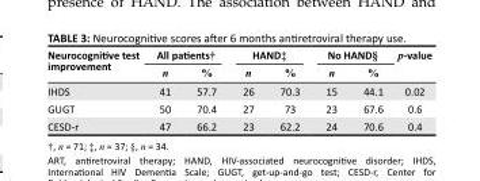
<table><thead><tr><td rowspan="2">Neurocognitive test improvement</td><td colspan="2">All patients†</td><td colspan="2">HAND‡</td><td colspan="2">No HAND§</td><td rowspan="2">p-value</td></tr><tr><td>n</td><td>%</td><td>n</td><td>%</td><td>n</td><td>%</td></tr></thead><tbody><tr><td>IHDS</td><td>41</td><td>57.7</td><td>26</td><td>70.3</td><td>15</td><td>44.1</td><td>0.02</td></tr><tr><td>GUGT</td><td>50</td><td>70.4</td><td>27</td><td>73</td><td>23</td><td>67.6</td><td>0.6</td></tr><tr><td>CESD-r</td><td>47</td><td>66.2</td><td>23</td><td>62.2</td><td>24</td><td>70.6</td><td>0.4</td></tr></tbody></table>